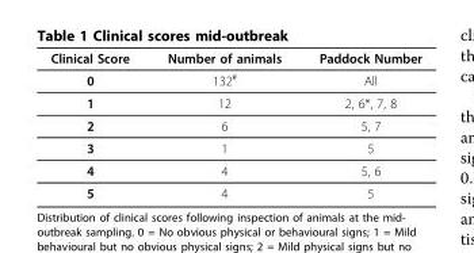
<table><thead><tr><td>Clinical Score</td><td>Number of animals</td><td>Paddock Number</td></tr></thead><tbody><tr><td>0</td><td>132<sup>#</sup></td><td>All</td></tr><tr><td>1</td><td>12</td><td>2, 6*, 7, 8</td></tr><tr><td>2</td><td>6</td><td>5, 7</td></tr><tr><td>3</td><td>1</td><td>5</td></tr><tr><td>4</td><td>4</td><td>5, 6</td></tr><tr><td>5</td><td>4</td><td>5</td></tr></tbody></table>